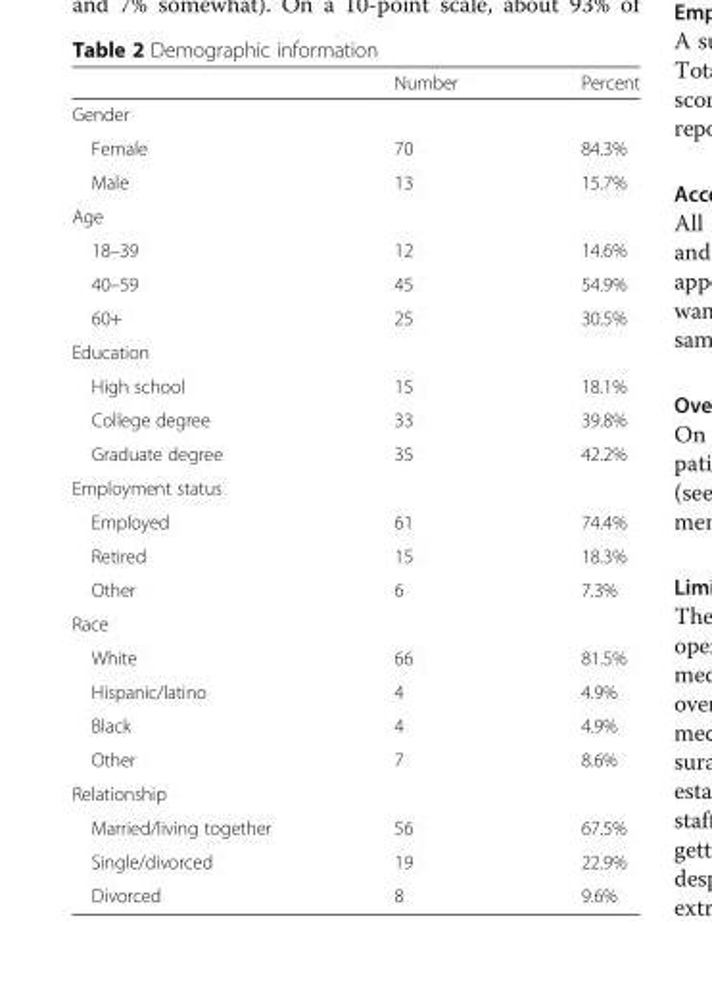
<table><thead><tr><td></td><td>Number</td><td>Percent</td></tr></thead><tbody><tr><td colspan="3">Gender</td></tr><tr><td>Female</td><td>70</td><td>84.3%</td></tr><tr><td>Male</td><td>13</td><td>15.7%</td></tr><tr><td colspan="3">Age</td></tr><tr><td>18–39</td><td>12</td><td>14.6%</td></tr><tr><td>40–59</td><td>45</td><td>54.9%</td></tr><tr><td>60+</td><td>25</td><td>30.5%</td></tr><tr><td colspan="3">Education</td></tr><tr><td>High school</td><td>15</td><td>18.1%</td></tr><tr><td>College degree</td><td>33</td><td>39.8%</td></tr><tr><td>Graduate degree</td><td>35</td><td>42.2%</td></tr><tr><td colspan="3">Employment status</td></tr><tr><td>Employed</td><td>61</td><td>74.4%</td></tr><tr><td>Retired</td><td>15</td><td>18.3%</td></tr><tr><td>Other</td><td>6</td><td>7.3%</td></tr><tr><td colspan="3">Race</td></tr><tr><td>White</td><td>66</td><td>81.5%</td></tr><tr><td>Hispanic/latino</td><td>4</td><td>4.9%</td></tr><tr><td>Black</td><td>4</td><td>4.9%</td></tr><tr><td>Other</td><td>7</td><td>8.6%</td></tr><tr><td colspan="3">Relationship</td></tr><tr><td>Married/living together</td><td>56</td><td>67.5%</td></tr><tr><td>Single/divorced</td><td>19</td><td>22.9%</td></tr><tr><td>Divorced</td><td>8</td><td>9.6%</td></tr></tbody></table>